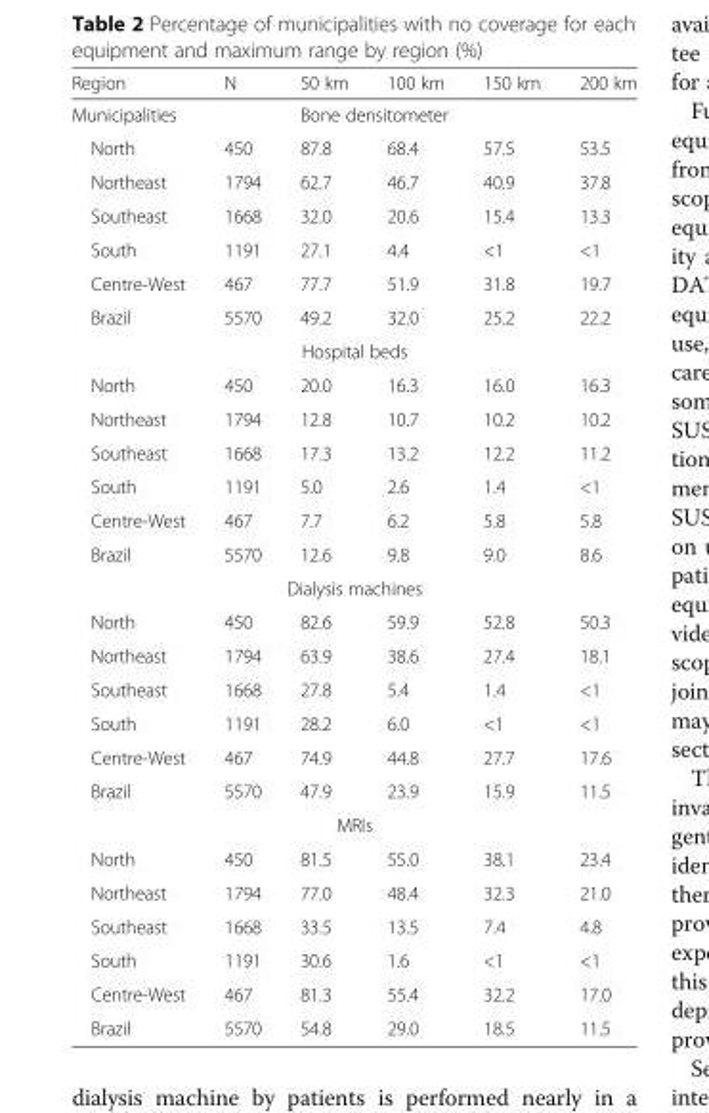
<table><thead><tr><td>Region</td><td>N</td><td>50 km</td><td>100 km</td><td>150 km</td><td>200 km</td></tr></thead><tbody><tr><td>Municipalities</td><td></td><td colspan="4">Bone densitometer</td></tr><tr><td>North</td><td>450</td><td>87.8</td><td>68.4</td><td>57.5</td><td>53.5</td></tr><tr><td>Northeast</td><td>1794</td><td>62.7</td><td>46.7</td><td>40.9</td><td>37.8</td></tr><tr><td>Southeast</td><td>1668</td><td>32.0</td><td>20.6</td><td>15.4</td><td>13.3</td></tr><tr><td>South</td><td>1191</td><td>27.1</td><td>4.4</td><td>&lt;1</td><td>&lt;1</td></tr><tr><td>Centre-West</td><td>467</td><td>77.7</td><td>51.9</td><td>31.8</td><td>19.7</td></tr><tr><td>Brazil</td><td>5570</td><td>49.2</td><td>32.0</td><td>25.2</td><td>22.2</td></tr><tr><td colspan="6">Hospital beds</td></tr><tr><td>North</td><td>450</td><td>20.0</td><td>16.3</td><td>16.0</td><td>16.3</td></tr><tr><td>Northeast</td><td>1794</td><td>12.8</td><td>10.7</td><td>10.2</td><td>10.2</td></tr><tr><td>Southeast</td><td>1668</td><td>17.3</td><td>13.2</td><td>12.2</td><td>11.2</td></tr><tr><td>South</td><td>1191</td><td>5.0</td><td>2.6</td><td>1.4</td><td>&lt;1</td></tr><tr><td>Centre-West</td><td>467</td><td>7.7</td><td>6.2</td><td>5.8</td><td>5.8</td></tr><tr><td>Brazil</td><td>5570</td><td>12.6</td><td>9.8</td><td>9.0</td><td>8.6</td></tr><tr><td colspan="6">Dialysis machines</td></tr><tr><td>North</td><td>450</td><td>82.6</td><td>59.9</td><td>52.8</td><td>50.3</td></tr><tr><td>Northeast</td><td>1794</td><td>63.9</td><td>38.6</td><td>27.4</td><td>18.1</td></tr><tr><td>Southeast</td><td>1668</td><td>27.8</td><td>5.4</td><td>1.4</td><td>&lt;1</td></tr><tr><td>South</td><td>1191</td><td>28.2</td><td>6.0</td><td>&lt;1</td><td>&lt;1</td></tr><tr><td>Centre-West</td><td>467</td><td>74.9</td><td>44.8</td><td>27.7</td><td>17.6</td></tr><tr><td>Brazil</td><td>5570</td><td>47.9</td><td>23.9</td><td>15.9</td><td>11.5</td></tr><tr><td colspan="6">MRIs</td></tr><tr><td>North</td><td>450</td><td>81.5</td><td>55.0</td><td>38.1</td><td>23.4</td></tr><tr><td>Northeast</td><td>1794</td><td>77.0</td><td>48.4</td><td>32.3</td><td>21.0</td></tr><tr><td>Southeast</td><td>1668</td><td>33.5</td><td>13.5</td><td>7.4</td><td>4.8</td></tr><tr><td>South</td><td>1191</td><td>30.6</td><td>1.6</td><td>&lt;1</td><td>&lt;1</td></tr><tr><td>Centre-West</td><td>467</td><td>81.3</td><td>55.4</td><td>32.2</td><td>17.0</td></tr><tr><td>Brazil</td><td>5570</td><td>54.8</td><td>29.0</td><td>18.5</td><td>11.5</td></tr></tbody></table>